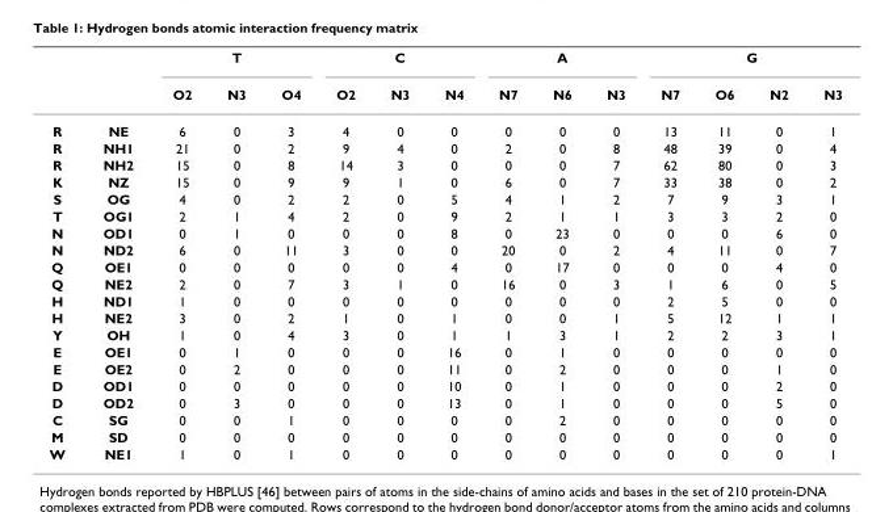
<table><thead><tr><td rowspan="2"></td><td rowspan="2"></td><td colspan="3">T</td><td colspan="3">C</td><td colspan="3">A</td><td colspan="4">G</td></tr><tr><td>O2</td><td>N3</td><td>O4</td><td>O2</td><td>N3</td><td>N4</td><td>N7</td><td>N6</td><td>N3</td><td>N7</td><td>O6</td><td>N2</td><td>N3</td></tr></thead><tbody><tr><td>R</td><td>NE</td><td>6</td><td>0</td><td>3</td><td>4</td><td>0</td><td>0</td><td>0</td><td>0</td><td>0</td><td>13</td><td>11</td><td>0</td><td>1</td></tr><tr><td>R</td><td>NH1</td><td>21</td><td>0</td><td>2</td><td>9</td><td>4</td><td>0</td><td>2</td><td>0</td><td>8</td><td>48</td><td>39</td><td>0</td><td>4</td></tr><tr><td>R</td><td>NH2</td><td>15</td><td>0</td><td>8</td><td>14</td><td>3</td><td>0</td><td>0</td><td>0</td><td>7</td><td>62</td><td>80</td><td>0</td><td>3</td></tr><tr><td>K</td><td>NZ</td><td>15</td><td>0</td><td>9</td><td>9</td><td>1</td><td>0</td><td>6</td><td>0</td><td>7</td><td>33</td><td>38</td><td>0</td><td>2</td></tr><tr><td>S</td><td>OG</td><td>4</td><td>0</td><td>2</td><td>2</td><td>0</td><td>5</td><td>4</td><td>1</td><td>2</td><td>7</td><td>9</td><td>3</td><td>1</td></tr><tr><td>T</td><td>OG1</td><td>2</td><td>1</td><td>4</td><td>2</td><td>0</td><td>9</td><td>2</td><td>1</td><td>1</td><td>3</td><td>3</td><td>2</td><td>0</td></tr><tr><td>N</td><td>OD1</td><td>0</td><td>1</td><td>0</td><td>0</td><td>0</td><td>8</td><td>0</td><td>23</td><td>0</td><td>0</td><td>0</td><td>6</td><td>0</td></tr><tr><td>N</td><td>ND2</td><td>6</td><td>0</td><td>11</td><td>3</td><td>0</td><td>0</td><td>20</td><td>0</td><td>2</td><td>4</td><td>11</td><td>0</td><td>7</td></tr><tr><td>Q</td><td>OE1</td><td>0</td><td>0</td><td>0</td><td>0</td><td>0</td><td>4</td><td>0</td><td>17</td><td>0</td><td>0</td><td>0</td><td>4</td><td>0</td></tr><tr><td>Q</td><td>NE2</td><td>2</td><td>0</td><td>7</td><td>3</td><td>1</td><td>0</td><td>16</td><td>0</td><td>3</td><td>1</td><td>6</td><td>0</td><td>5</td></tr><tr><td>H</td><td>ND1</td><td>1</td><td>0</td><td>0</td><td>0</td><td>0</td><td>0</td><td>0</td><td>0</td><td>0</td><td>2</td><td>5</td><td>0</td><td>0</td></tr><tr><td>H</td><td>NE2</td><td>3</td><td>0</td><td>2</td><td>1</td><td>0</td><td>1</td><td>0</td><td>0</td><td>1</td><td>5</td><td>12</td><td>1</td><td>1</td></tr><tr><td>Y</td><td>OH</td><td>1</td><td>0</td><td>4</td><td>3</td><td>0</td><td>1</td><td>1</td><td>3</td><td>1</td><td>2</td><td>2</td><td>3</td><td>1</td></tr><tr><td>E</td><td>OE1</td><td>0</td><td>1</td><td>0</td><td>0</td><td>0</td><td>16</td><td>0</td><td>1</td><td>0</td><td>0</td><td>0</td><td>0</td><td>0</td></tr><tr><td>E</td><td>OE2</td><td>0</td><td>2</td><td>0</td><td>0</td><td>0</td><td>11</td><td>0</td><td>2</td><td>0</td><td>0</td><td>0</td><td>1</td><td>0</td></tr><tr><td>D</td><td>OD1</td><td>0</td><td>0</td><td>0</td><td>0</td><td>0</td><td>10</td><td>0</td><td>1</td><td>0</td><td>0</td><td>0</td><td>2</td><td>0</td></tr><tr><td>D</td><td>OD2</td><td>0</td><td>3</td><td>0</td><td>0</td><td>0</td><td>13</td><td>0</td><td>1</td><td>0</td><td>0</td><td>0</td><td>5</td><td>0</td></tr><tr><td>C</td><td>SG</td><td>0</td><td>0</td><td>1</td><td>0</td><td>0</td><td>0</td><td>0</td><td>2</td><td>0</td><td>0</td><td>0</td><td>0</td><td>0</td></tr><tr><td>M</td><td>SD</td><td>0</td><td>0</td><td>0</td><td>0</td><td>0</td><td>0</td><td>0</td><td>0</td><td>0</td><td>0</td><td>0</td><td>0</td><td>0</td></tr><tr><td>W</td><td>NE1</td><td>1</td><td>0</td><td>1</td><td>0</td><td>0</td><td>0</td><td>0</td><td>0</td><td>0</td><td>0</td><td>0</td><td>0</td><td>1</td></tr></tbody></table>